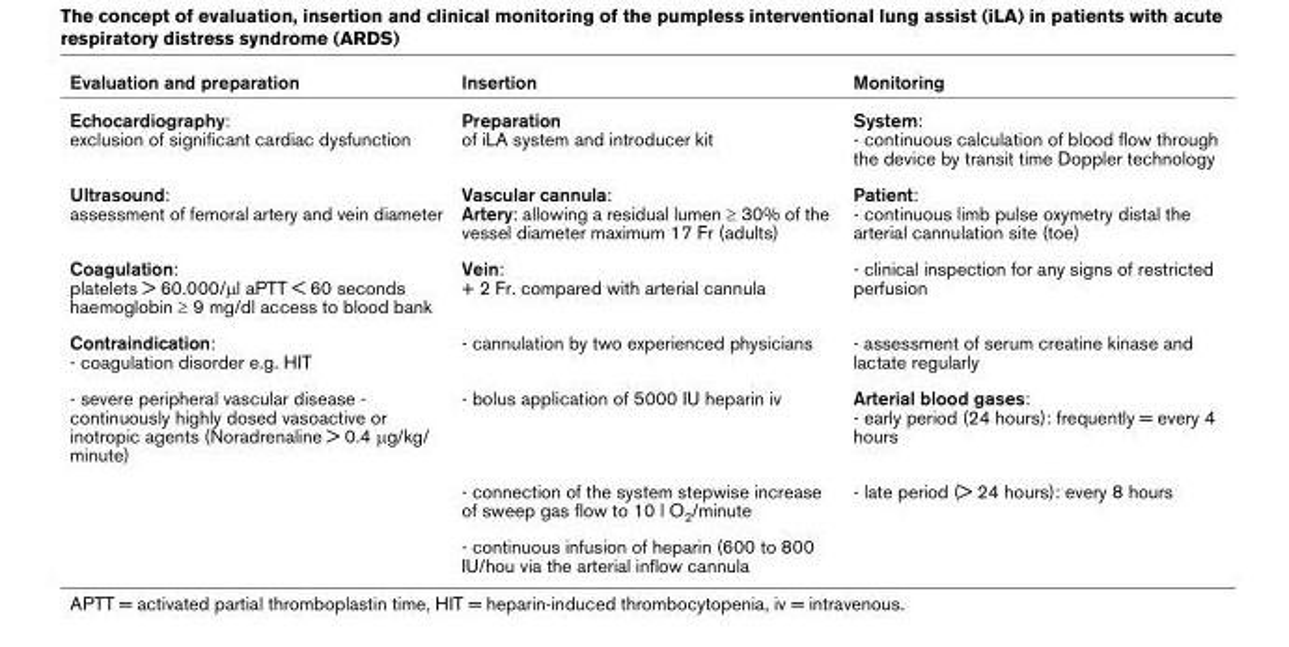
<table><thead><tr><td>Evaluation and preparation</td><td>Insertion</td><td>Monitoring</td></tr></thead><tbody><tr><td>Echocardiography: exclusion of significant cardiac dysfunction</td><td>Preparation of iLA system and introducer kit</td><td>System: - continuous calculation of blood flow through the device by transit time Doppler technology</td></tr><tr><td>Ultrasound: assessment of femoral artery and vein diameter</td><td>Vascular cannula: Artery: allowing a residual lumen ≥ 30% of the vessel diameter maximum 17 Fr (adults)</td><td>Patient: - continuous limb pulse oxymetry distal the arterial cannulation site (toe)</td></tr><tr><td>Coagulation: platelets &gt; 60.000/μl aPTT &lt; 60 seconds haemoglobin ≥ 9 mg/dl access to blood bank</td><td>Vein: + 2 Fr. compared with arterial cannula</td><td>- clinical inspection for any signs of restricted perfusion</td></tr><tr><td>Contraindication: - coagulation disorder e.g. HIT</td><td>- cannulation by two experienced physicians</td><td>- assessment of serum creatine kinase and lactate regularly</td></tr><tr><td rowspan="3">- severe peripheral vascular disease - continuously highly dosed vasoactive or inotropic agents (Noradrenaline &gt; 0.4 μg/kg/ minute)</td><td>- bolus application of 5000 IU heparin iv</td><td>Arterial blood gases: - early period (24 hours): frequently = every 4 hours</td></tr><tr><td>- connection of the system stepwise increase of sweep gas flow to 10 l O<sub>2</sub>/minute</td><td>- late period (&gt; 24 hours): every 8 hours</td></tr><tr><td>- continuous infusion of heparin (600 to 800 IU/hou via the arterial inflow cannula</td><td></td></tr></tbody></table>